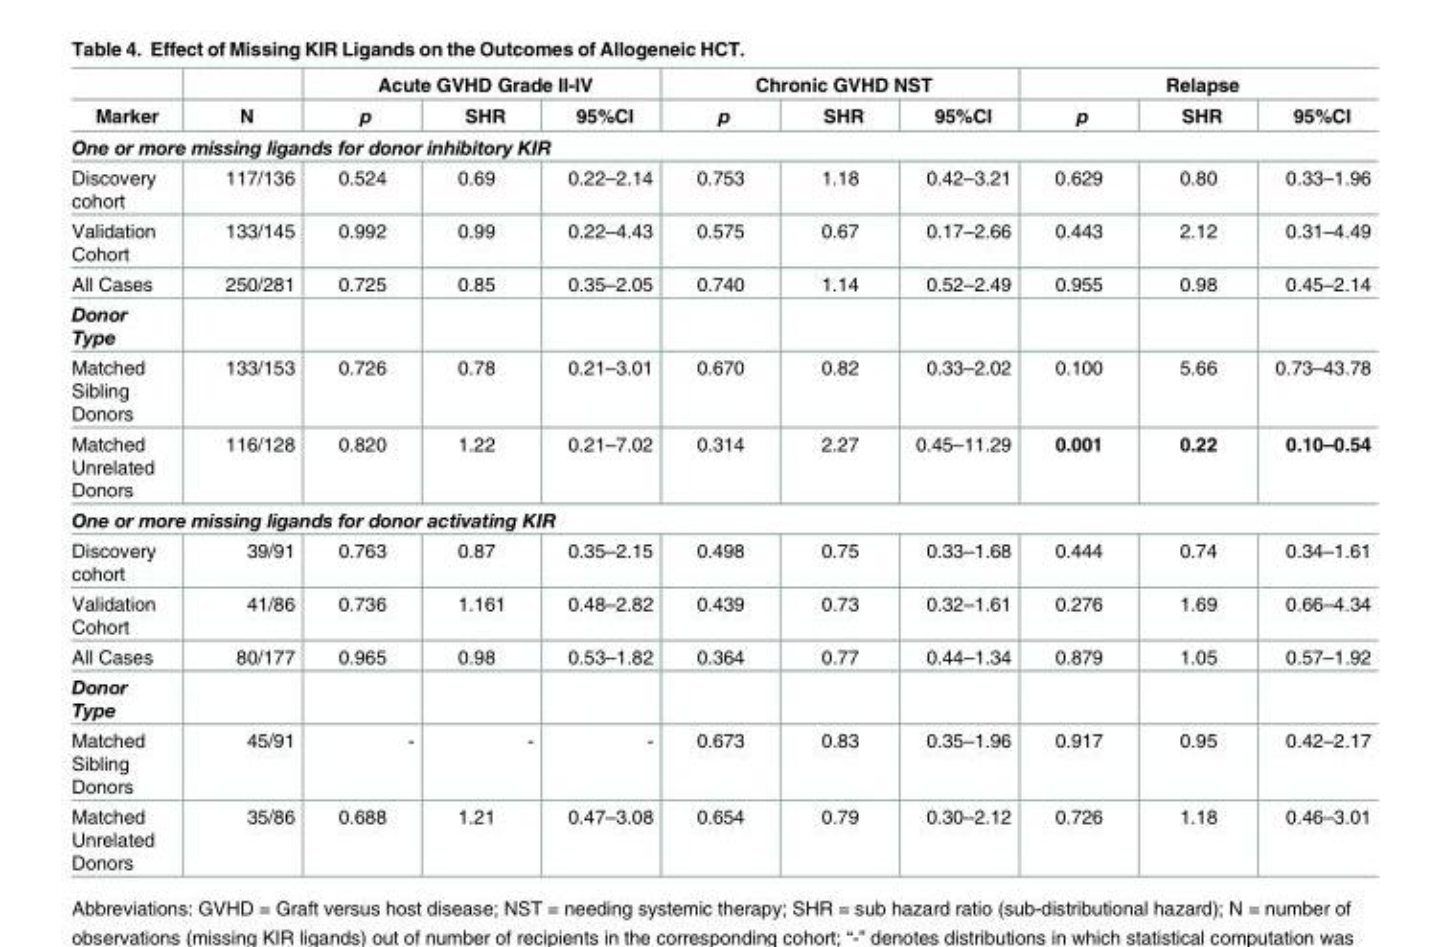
<table><thead><tr><td rowspan="2">Marker</td><td rowspan="2">N</td><td colspan="3">Acute GVHD Grade II-IV</td><td colspan="3">Chronic GVHD NST</td><td colspan="3">Relapse</td></tr><tr><td>p</td><td>SHR</td><td>95%CI</td><td>p</td><td>SHR</td><td>95%CI</td><td>p</td><td>SHR</td><td>95%CI</td></tr></thead><tbody><tr><td colspan="11">One or more missing ligands for donor inhibitory KIR</td></tr><tr><td>Discovery cohort</td><td>117/136</td><td>0.524</td><td>0.69</td><td>0.22–2.14</td><td>0.753</td><td>1.18</td><td>0.42–3.21</td><td>0.629</td><td>0.80</td><td>0.33–1.96</td></tr><tr><td>Validation Cohort</td><td>133/145</td><td>0.992</td><td>0.99</td><td>0.22–4.43</td><td>0.575</td><td>0.67</td><td>0.17–2.66</td><td>0.443</td><td>2.12</td><td>0.31–4.49</td></tr><tr><td>All Cases</td><td>250/281</td><td>0.725</td><td>0.85</td><td>0.35–2.05</td><td>0.740</td><td>1.14</td><td>0.52–2.49</td><td>0.955</td><td>0.98</td><td>0.45–2.14</td></tr><tr><td colspan="11">Donor Type</td></tr><tr><td>Matched Sibling Donors</td><td>133/153</td><td>0.726</td><td>0.78</td><td>0.21–3.01</td><td>0.670</td><td>0.82</td><td>0.33–2.02</td><td>0.100</td><td>5.66</td><td>0.73–43.78</td></tr><tr><td>Matched Unrelated Donors</td><td>116/128</td><td>0.820</td><td>1.22</td><td>0.21–7.02</td><td>0.314</td><td>2.27</td><td>0.45–11.29</td><td>0.001</td><td>0.22</td><td>0.10–0.54</td></tr><tr><td colspan="11">One or more missing ligands for donor activating KIR</td></tr><tr><td>Discovery cohort</td><td>39/91</td><td>0.763</td><td>0.87</td><td>0.35–2.15</td><td>0.498</td><td>0.75</td><td>0.33–1.68</td><td>0.444</td><td>0.74</td><td>0.34–1.61</td></tr><tr><td>Validation Cohort</td><td>41/86</td><td>0.736</td><td>1.161</td><td>0.48–2.82</td><td>0.439</td><td>0.73</td><td>0.32–1.61</td><td>0.276</td><td>1.69</td><td>0.66–4.34</td></tr><tr><td>All Cases</td><td>80/177</td><td>0.965</td><td>0.98</td><td>0.53–1.82</td><td>0.364</td><td>0.77</td><td>0.44–1.34</td><td>0.879</td><td>1.05</td><td>0.57–1.92</td></tr><tr><td colspan="11">Donor Type</td></tr><tr><td>Matched Sibling Donors</td><td>45/91</td><td>-</td><td>-</td><td>-</td><td>0.673</td><td>0.83</td><td>0.35–1.96</td><td>0.917</td><td>0.95</td><td>0.42–2.17</td></tr><tr><td>Matched Unrelated Donors</td><td>35/86</td><td>0.688</td><td>1.21</td><td>0.47–3.08</td><td>0.654</td><td>0.79</td><td>0.30–2.12</td><td>0.726</td><td>1.18</td><td>0.46–3.01</td></tr></tbody></table>